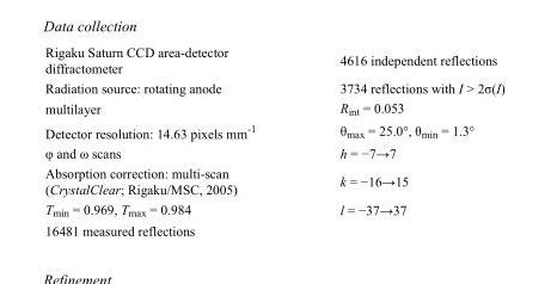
<table><tbody><tr><td>Rigaku Saturn CCD area-detector diffractometer</td><td>4616 independent reflections</td></tr><tr><td>Radiation source: rotating anode</td><td>3734 reflections with I &gt; 2σ(I)</td></tr><tr><td>multilayer</td><td>R<sub>int</sub> = 0.053</td></tr><tr><td>Detector resolution: 14.63 pixels mm<sup>-1</sup></td><td>θ<sub>max</sub> = 25.0°, θ<sub>min</sub> = 1.3°</td></tr><tr><td>φ and ω scans</td><td>h = −7→7</td></tr><tr><td>Absorption correction: multi-scan (CrystalClear; Rigaku/MSC, 2005)</td><td>k = −16→15</td></tr><tr><td>T<sub>min</sub> = 0.969, T<sub>max</sub> = 0.984</td><td>l = −37→37</td></tr><tr><td>16481 measured reflections</td><td></td></tr></tbody></table>